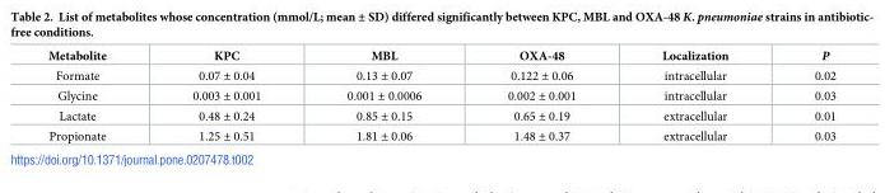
<table><thead><tr><td>Metabolite</td><td>KPC</td><td>MBL</td><td>OXA-48</td><td>Localization</td><td>P</td></tr></thead><tbody><tr><td>Formate</td><td>0.07 ± 0.04</td><td>0.13 ± 0.07</td><td>0.122 ± 0.06</td><td>intracellular</td><td>0.02</td></tr><tr><td>Glycine</td><td>0.003 ± 0.001</td><td>0.001 ± 0.0006</td><td>0.002 ± 0.001</td><td>intracellular</td><td>0.03</td></tr><tr><td>Lactate</td><td>0.48 ± 0.24</td><td>0.85 ± 0.15</td><td>0.65 ± 0.19</td><td>extracellular</td><td>0.01</td></tr><tr><td>Propionate</td><td>1.25 ± 0.51</td><td>1.81 ± 0.06</td><td>1.48 ± 0.37</td><td>extracellular</td><td>0.03</td></tr></tbody></table>